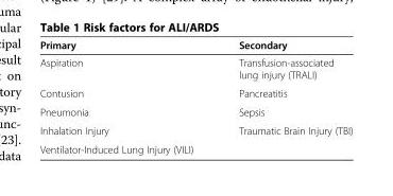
<table><thead><tr><td>Primary</td><td>Secondary</td></tr></thead><tbody><tr><td>Aspiration</td><td>Transfusion-associated lung injury (TRALI)</td></tr><tr><td>Contusion</td><td>Pancreatitis</td></tr><tr><td>Pneumonia</td><td>Sepsis</td></tr><tr><td>Inhalation Injury</td><td>Traumatic Brain Injury (TBI)</td></tr><tr><td>Ventilator-Induced Lung Injury (VILI)</td><td></td></tr></tbody></table>